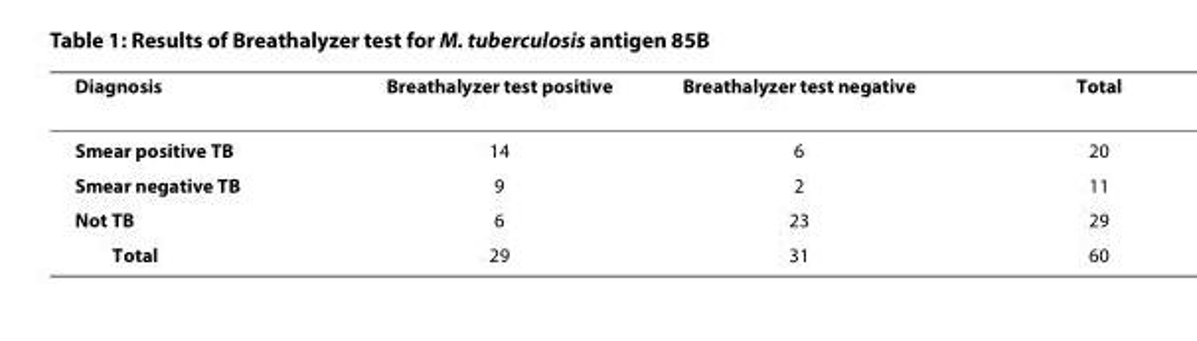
<table><thead><tr><td>Diagnosis</td><td>Breathalyzer test positive</td><td>Breathalyzer test negative</td><td>Total</td></tr></thead><tbody><tr><td>Smear positive TB</td><td>14</td><td>6</td><td>20</td></tr><tr><td>Smear negative TB</td><td>9</td><td>2</td><td>11</td></tr><tr><td>Not TB</td><td>6</td><td>23</td><td>29</td></tr><tr><td>Total</td><td>29</td><td>31</td><td>60</td></tr></tbody></table>